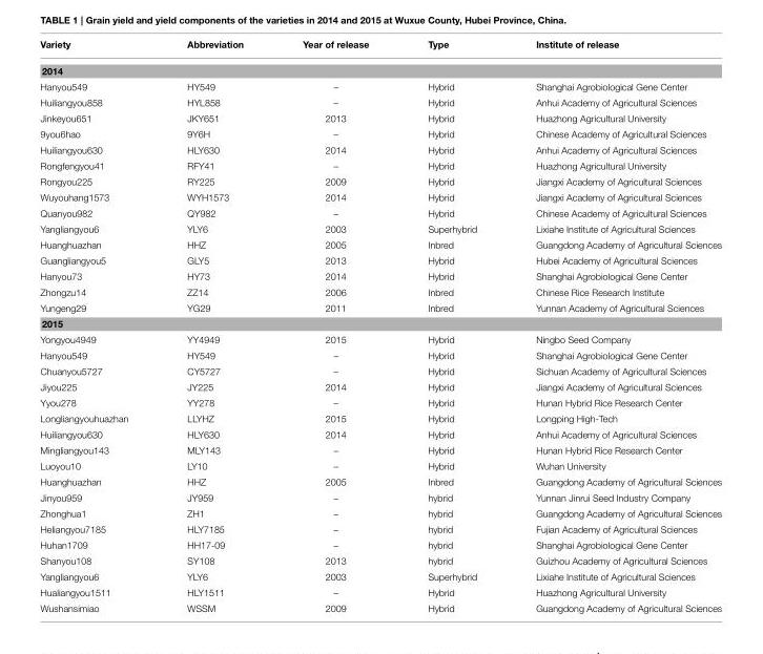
<table><thead><tr><td>Variety</td><td>Abbreviation</td><td>Year of release</td><td>Type</td><td>Institute of release</td></tr></thead><tbody><tr><td colspan="5">2014</td></tr><tr><td>Hanyou549</td><td>HY549</td><td>–</td><td>Hybrid</td><td>Shanghai Agrobiological Gene Center</td></tr><tr><td>Huiliangyou858</td><td>HYL858</td><td>–</td><td>Hybrid</td><td>Anhui Academy of Agricultural Sciences</td></tr><tr><td>Jinkeyou651</td><td>JKY651</td><td>2013</td><td>Hybrid</td><td>Huazhong Agricultural University</td></tr><tr><td>9you6hao</td><td>9Y6H</td><td>–</td><td>Hybrid</td><td>Chinese Academy of Agricultural Sciences</td></tr><tr><td>Huiliangyou630</td><td>HLY630</td><td>2014</td><td>Hybrid</td><td>Anhui Academy of Agricultural Sciences</td></tr><tr><td>Rongfengyou41</td><td>RFY41</td><td>–</td><td>Hybrid</td><td>Huazhong Agricultural University</td></tr><tr><td>Rongyou225</td><td>RY225</td><td>2009</td><td>Hybrid</td><td>Jiangxi Academy of Agricultural Sciences</td></tr><tr><td>Wuyouhang1573</td><td>WYH1573</td><td>2014</td><td>Hybrid</td><td>Jiangxi Academy of Agricultural Sciences</td></tr><tr><td>Quanyou982</td><td>QY982</td><td>–</td><td>Hybrid</td><td>Chinese Academy of Agricultural Sciences</td></tr><tr><td>Yangliangyou6</td><td>YLY6</td><td>2003</td><td>Superhybrid</td><td>Lixiahe Institute of Agricultural Sciences</td></tr><tr><td>Huanghuazhan</td><td>HHZ</td><td>2005</td><td>Inbred</td><td>Guangdong Academy of Agricultural Sciences</td></tr><tr><td>Guangliangyou5</td><td>GLY5</td><td>2013</td><td>Hybrid</td><td>Hubei Academy of Agricultural Sciences</td></tr><tr><td>Hanyou73</td><td>HY73</td><td>2014</td><td>Hybrid</td><td>Shanghai Agrobiological Gene Center</td></tr><tr><td>Zhongzu14</td><td>ZZ14</td><td>2006</td><td>Inbred</td><td>Chinese Rice Research Institute</td></tr><tr><td>Yungeng29</td><td>YG29</td><td>2011</td><td>Inbred</td><td>Yunnan Academy of Agricultural Sciences</td></tr><tr><td colspan="5">2015</td></tr><tr><td>Yongyou4949</td><td>YY4949</td><td>2015</td><td>Hybrid</td><td>Ningbo Seed Company</td></tr><tr><td>Hanyou549</td><td>HY549</td><td>–</td><td>Hybrid</td><td>Shanghai Agrobiological Gene Center</td></tr><tr><td>Chuanyou5727</td><td>CY5727</td><td>–</td><td>Hybrid</td><td>Sichuan Academy of Agricultural Sciences</td></tr><tr><td>Jiyou225</td><td>JY225</td><td>2014</td><td>Hybrid</td><td>Jiangxi Academy of Agricultural Sciences</td></tr><tr><td>Yyou278</td><td>YY278</td><td>–</td><td>Hybrid</td><td>Hunan Hybrid Rice Research Center</td></tr><tr><td>Longliangyouhuazhan</td><td>LLYHZ</td><td>2015</td><td>Hybrid</td><td>Longping High-Tech</td></tr><tr><td>Huiliangyou630</td><td>HLY630</td><td>2014</td><td>Hybrid</td><td>Anhui Academy of Agricultural Sciences</td></tr><tr><td>Mingliangyou143</td><td>MLY143</td><td>–</td><td>Hybrid</td><td>Hunan Hybrid Rice Research Center</td></tr><tr><td>Luoyou10</td><td>LY10</td><td>–</td><td>Hybrid</td><td>Wuhan University</td></tr><tr><td>Huanghuazhan</td><td>HHZ</td><td>2005</td><td>Inbred</td><td>Guangdong Academy of Agricultural Sciences</td></tr><tr><td>Jinyou959</td><td>JY959</td><td>–</td><td>hybrid</td><td>Yunnan Jinrui Seed Industry Company</td></tr><tr><td>Zhonghua1</td><td>ZH1</td><td>–</td><td>hybrid</td><td>Guangdong Academy of Agricultural Sciences</td></tr><tr><td>Heliangyou7185</td><td>HLY7185</td><td>–</td><td>hybrid</td><td>Fujian Academy of Agricultural Sciences</td></tr><tr><td>Huhan1709</td><td>HH17-09</td><td>–</td><td>hybrid</td><td>Shanghai Agrobiological Gene Center</td></tr><tr><td>Shanyou108</td><td>SY108</td><td>2013</td><td>hybrid</td><td>Guizhou Academy of Agricultural Sciences</td></tr><tr><td>Yangliangyou6</td><td>YLY6</td><td>2003</td><td>Superhybrid</td><td>Lixiahe Institute of Agricultural Sciences</td></tr><tr><td>Hualiangyou1511</td><td>HLY1511</td><td>–</td><td>Hybrid</td><td>Huazhong Agricultural University</td></tr><tr><td>Wushansimiao</td><td>WSSM</td><td>2009</td><td>Hybrid</td><td>Guangdong Academy of Agricultural Sciences</td></tr></tbody></table>